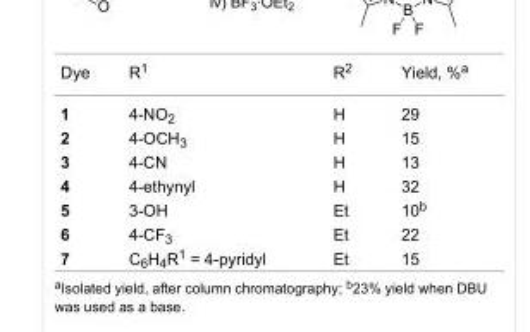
<table><tbody><tr><td>Dye</td><td>R<sup>1</sup></td><td>R<sup>2</sup></td><td>Yield, %<sup>a</sup></td></tr><tr><td>1</td><td>4-NO<sub>2</sub></td><td>H</td><td>29</td></tr><tr><td>2</td><td>4-OCH<sub>3</sub></td><td>H</td><td>15</td></tr><tr><td>3</td><td>4-CN</td><td>H</td><td>13</td></tr><tr><td>4</td><td>4-ethynyl</td><td>H</td><td>32</td></tr><tr><td>5</td><td>3-OH</td><td>Et</td><td>10<sup>b</sup></td></tr><tr><td>6</td><td>4-CF<sub>3</sub></td><td>Et</td><td>22</td></tr><tr><td>7</td><td>C<sub>6</sub>H<sub>4</sub>R<sup>1</sup> = 4-pyridyl</td><td>Et</td><td>15</td></tr></tbody></table>